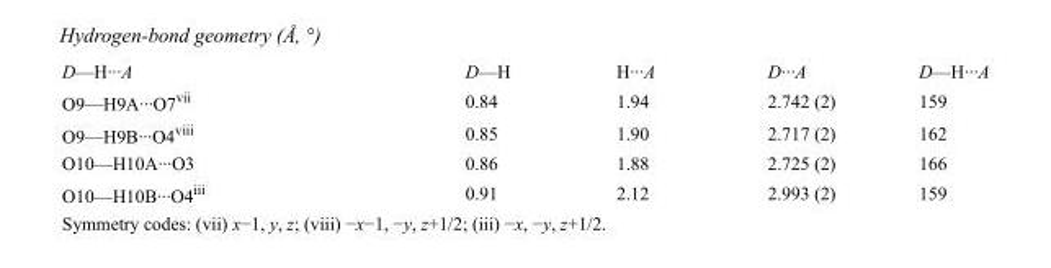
<table><tbody><tr><td>D—H···A</td><td>D—H</td><td>H···A</td><td>D···A</td><td>D—H···A</td></tr><tr><td>O9—H9A···O7<sup>vii</sup></td><td>0.84</td><td>1.94</td><td>2.742 (2)</td><td>159</td></tr><tr><td>O9—H9B···O4<sup>viii</sup></td><td>0.85</td><td>1.90</td><td>2.717 (2)</td><td>162</td></tr><tr><td>O10—H10A···O3</td><td>0.86</td><td>1.88</td><td>2.725 (2)</td><td>166</td></tr><tr><td>O10—H10B···O4<sup>iii</sup></td><td>0.91</td><td>2.12</td><td>2.993 (2)</td><td>159</td></tr></tbody></table>